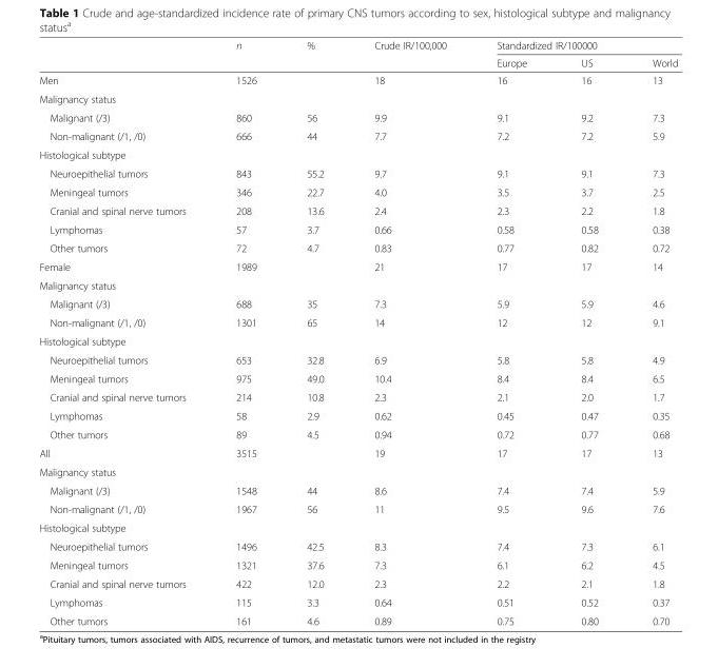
<table><thead><tr><td rowspan="2"></td><td rowspan="2">n</td><td rowspan="2">%</td><td rowspan="2">Crude IR/100,000</td><td colspan="3">Standardized IR/100000</td></tr><tr><td>Europe</td><td>US</td><td>World</td></tr></thead><tbody><tr><td>Men</td><td>1526</td><td></td><td>18</td><td>16</td><td>16</td><td>13</td></tr><tr><td colspan="7">Malignancy status</td></tr><tr><td>Malignant (/3)</td><td>860</td><td>56</td><td>9.9</td><td>9.1</td><td>9.2</td><td>7.3</td></tr><tr><td>Non-malignant (/1, /0)</td><td>666</td><td>44</td><td>7.7</td><td>7.2</td><td>7.2</td><td>5.9</td></tr><tr><td colspan="7">Histological subtype</td></tr><tr><td>Neuroepithelial tumors</td><td>843</td><td>55.2</td><td>9.7</td><td>9.1</td><td>9.1</td><td>7.3</td></tr><tr><td>Meningeal tumors</td><td>346</td><td>22.7</td><td>4.0</td><td>3.5</td><td>3.7</td><td>2.5</td></tr><tr><td>Cranial and spinal nerve tumors</td><td>208</td><td>13.6</td><td>2.4</td><td>2.3</td><td>2.2</td><td>1.8</td></tr><tr><td>Lymphomas</td><td>57</td><td>3.7</td><td>0.66</td><td>0.58</td><td>0.58</td><td>0.38</td></tr><tr><td>Other tumors</td><td>72</td><td>4.7</td><td>0.83</td><td>0.77</td><td>0.82</td><td>0.72</td></tr><tr><td>Female</td><td>1989</td><td></td><td>21</td><td>17</td><td>17</td><td>14</td></tr><tr><td colspan="7">Malignancy status</td></tr><tr><td>Malignant (/3)</td><td>688</td><td>35</td><td>7.3</td><td>5.9</td><td>5.9</td><td>4.6</td></tr><tr><td>Non-malignant (/1, /0)</td><td>1301</td><td>65</td><td>14</td><td>12</td><td>12</td><td>9.1</td></tr><tr><td colspan="7">Histological subtype</td></tr><tr><td>Neuroepithelial tumors</td><td>653</td><td>32.8</td><td>6.9</td><td>5.8</td><td>5.8</td><td>4.9</td></tr><tr><td>Meningeal tumors</td><td>975</td><td>49.0</td><td>10.4</td><td>8.4</td><td>8.4</td><td>6.5</td></tr><tr><td>Cranial and spinal nerve tumors</td><td>214</td><td>10.8</td><td>2.3</td><td>2.1</td><td>2.0</td><td>1.7</td></tr><tr><td>Lymphomas</td><td>58</td><td>2.9</td><td>0.62</td><td>0.45</td><td>0.47</td><td>0.35</td></tr><tr><td>Other tumors</td><td>89</td><td>4.5</td><td>0.94</td><td>0.72</td><td>0.77</td><td>0.68</td></tr><tr><td>All</td><td>3515</td><td></td><td>19</td><td>17</td><td>17</td><td>13</td></tr><tr><td colspan="7">Malignancy status</td></tr><tr><td>Malignant (/3)</td><td>1548</td><td>44</td><td>8.6</td><td>7.4</td><td>7.4</td><td>5.9</td></tr><tr><td>Non-malignant (/1, /0)</td><td>1967</td><td>56</td><td>11</td><td>9.5</td><td>9.6</td><td>7.6</td></tr><tr><td colspan="7">Histological subtype</td></tr><tr><td>Neuroepithelial tumors</td><td>1496</td><td>42.5</td><td>8.3</td><td>7.4</td><td>7.3</td><td>6.1</td></tr><tr><td>Meningeal tumors</td><td>1321</td><td>37.6</td><td>7.3</td><td>6.1</td><td>6.2</td><td>4.5</td></tr><tr><td>Cranial and spinal nerve tumors</td><td>422</td><td>12.0</td><td>2.3</td><td>2.2</td><td>2.1</td><td>1.8</td></tr><tr><td>Lymphomas</td><td>115</td><td>3.3</td><td>0.64</td><td>0.51</td><td>0.52</td><td>0.37</td></tr><tr><td>Other tumors</td><td>161</td><td>4.6</td><td>0.89</td><td>0.75</td><td>0.80</td><td>0.70</td></tr></tbody></table>